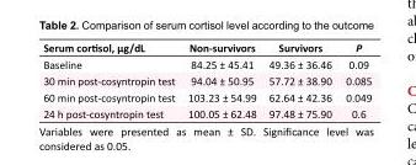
<table><tbody><tr><td>Serum cortisol, µg/dL</td><td>Non-survivors</td><td>Survivors</td><td>P</td></tr><tr><td>Baseline</td><td>84.25 ± 45.41</td><td>49.36 ± 36.46</td><td>0.09</td></tr><tr><td>30 min post-cosyntropin test</td><td>94.04 ± 50.95</td><td>57.72 ± 38.90</td><td>0.085</td></tr><tr><td>60 min post-cosyntropin test</td><td>103.23 ± 54.99</td><td>62.64 ± 42.36</td><td>0.049</td></tr><tr><td>24 h post-cosyntropin test</td><td>100.05 ± 62.48</td><td>97.48 ± 75.90</td><td>0.6</td></tr></tbody></table>